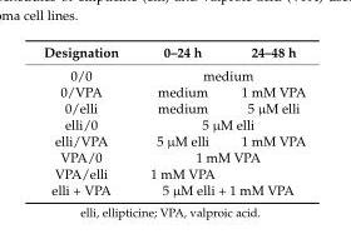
<table><thead><tr><td>Designation</td><td>0–24 h</td><td>24–48 h</td></tr></thead><tbody><tr><td>0/0</td><td colspan="2">medium</td></tr><tr><td>0/VPA</td><td>medium</td><td>1 mM VPA</td></tr><tr><td>0/elli</td><td>medium</td><td>5 µM elli</td></tr><tr><td>elli/0</td><td colspan="2">5 µM elli</td></tr><tr><td>elli/VPA</td><td>5 µM elli</td><td>1 mM VPA</td></tr><tr><td>VPA/0</td><td colspan="2">1 mM VPA</td></tr><tr><td>VPA/elli</td><td>1 mM VPA</td><td></td></tr><tr><td>elli + VPA</td><td colspan="2">5 µM elli + 1 mM VPA</td></tr></tbody></table>